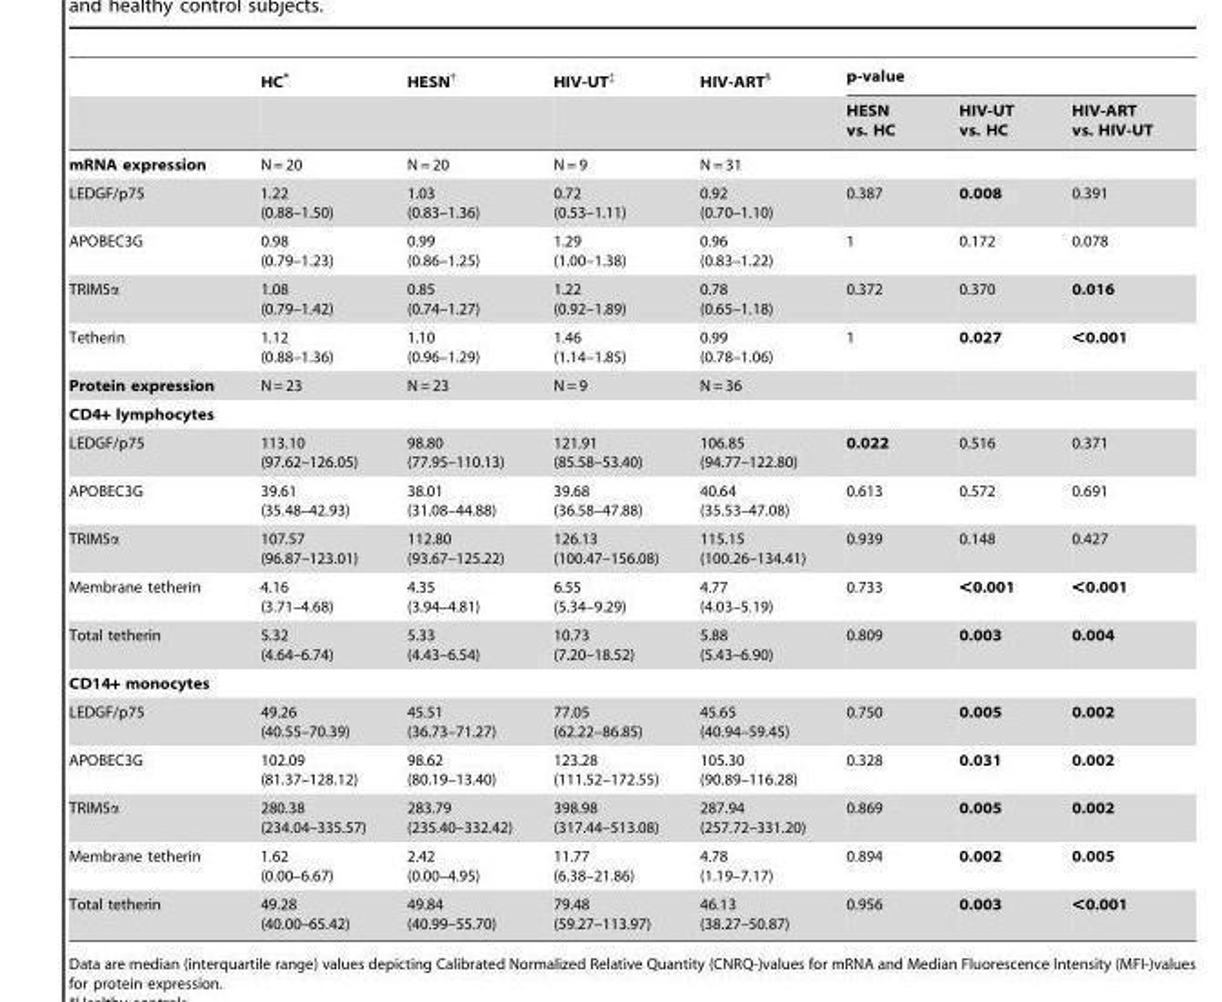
<table><thead><tr><td rowspan="2"></td><td rowspan="2">HC*</td><td rowspan="2">HESN†</td><td rowspan="2">HIV-UT‡</td><td rowspan="2">HIV-ART§</td><td colspan="3">p-value</td></tr><tr><td>HESN vs. HC</td><td>HIV-UT vs. HC</td><td>HIV-ART vs. HIV-UT</td></tr></thead><tbody><tr><td>mRNA expression</td><td>N = 20</td><td>N = 20</td><td>N = 9</td><td>N = 31</td><td></td><td></td><td></td></tr><tr><td>LEDGF/p75</td><td>1.22 (0.88–1.50)</td><td>1.03 (0.83–1.36)</td><td>0.72 (0.53–1.11)</td><td>0.92 (0.70–1.10)</td><td>0.387</td><td>0.008</td><td>0.391</td></tr><tr><td>APOBEC3G</td><td>0.98 (0.79–1.23)</td><td>0.99 (0.86–1.25)</td><td>1.29 (1.00–1.38)</td><td>0.96 (0.83–1.22)</td><td>1</td><td>0.172</td><td>0.078</td></tr><tr><td>TRIM5α</td><td>1.08 (0.79–1.42)</td><td>0.85 (0.74–1.27)</td><td>1.22 (0.92–1.89)</td><td>0.78 (0.65–1.18)</td><td>0.372</td><td>0.370</td><td>0.016</td></tr><tr><td>Tetherin</td><td>1.12 (0.88–1.36)</td><td>1.10 (0.96–1.29)</td><td>1.46 (1.14–1.85)</td><td>0.99 (0.78–1.06)</td><td>1</td><td>0.027</td><td>&lt;0.001</td></tr><tr><td>Protein expression</td><td>N = 23</td><td>N = 23</td><td>N = 9</td><td>N = 36</td><td></td><td></td><td></td></tr><tr><td colspan="8">CD4+ lymphocytes</td></tr><tr><td>LEDGF/p75</td><td>113.10 (97.62–126.05)</td><td>98.80 (77.95–110.13)</td><td>121.91 (85.58–53.40)</td><td>106.85 (94.77–122.80)</td><td>0.022</td><td>0.516</td><td>0.371</td></tr><tr><td>APOBEC3G</td><td>39.61 (35.48–42.93)</td><td>38.01 (31.08–44.88)</td><td>39.68 (36.58–47.88)</td><td>40.64 (35.53–47.08)</td><td>0.613</td><td>0.572</td><td>0.691</td></tr><tr><td>TRIM5α</td><td>107.57 (96.87–123.01)</td><td>112.80 (93.67–125.22)</td><td>126.13 (100.47–156.08)</td><td>115.15 (100.26–134.41)</td><td>0.939</td><td>0.148</td><td>0.427</td></tr><tr><td>Membrane tetherin</td><td>4.16 (3.71–4.68)</td><td>4.35 (3.94–4.81)</td><td>6.55 (5.34–9.29)</td><td>4.77 (4.03–5.19)</td><td>0.733</td><td>&lt;0.001</td><td>&lt;0.001</td></tr><tr><td>Total tetherin</td><td>5.32 (4.64–6.74)</td><td>5.33 (4.43–6.54)</td><td>10.73 (7.20–18.52)</td><td>5.88 (5.43–6.90)</td><td>0.809</td><td>0.003</td><td>0.004</td></tr><tr><td colspan="8">CD14+ monocytes</td></tr><tr><td>LEDGF/p75</td><td>49.26 (40.55–70.39)</td><td>45.51 (36.73–71.27)</td><td>77.05 (62.22–86.85)</td><td>45.65 (40.94–59.45)</td><td>0.750</td><td>0.005</td><td>0.002</td></tr><tr><td>APOBEC3G</td><td>102.09 (81.37–128.12)</td><td>98.62 (80.19–13.40)</td><td>123.28 (111.52–172.55)</td><td>105.30 (90.89–116.28)</td><td>0.328</td><td>0.031</td><td>0.002</td></tr><tr><td>TRIM5α</td><td>280.38 (234.04–335.57)</td><td>283.79 (235.40–332.42)</td><td>398.98 (317.44–513.08)</td><td>287.94 (257.72–331.20)</td><td>0.869</td><td>0.005</td><td>0.002</td></tr><tr><td>Membrane tetherin</td><td>1.62 (0.00–6.67)</td><td>2.42 (0.00–4.95)</td><td>11.77 (6.38–21.86)</td><td>4.78 (1.19–7.17)</td><td>0.894</td><td>0.002</td><td>0.005</td></tr><tr><td>Total tetherin</td><td>49.28 (40.00–65.42)</td><td>49.84 (40.99–55.70)</td><td>79.48 (59.27–113.97)</td><td>46.13 (38.27–50.87)</td><td>0.956</td><td>0.003</td><td>&lt;0.001</td></tr></tbody></table>